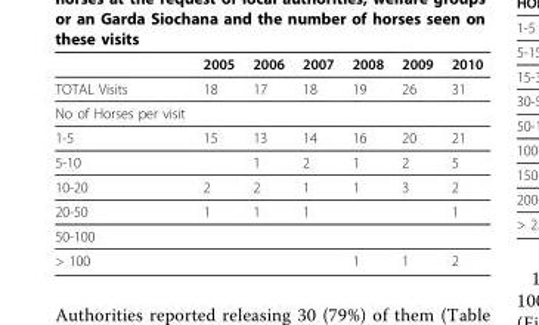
<table><thead><tr><td></td><td>2005</td><td>2006</td><td>2007</td><td>2008</td><td>2009</td><td>2010</td></tr></thead><tbody><tr><td>TOTAL Visits</td><td>18</td><td>17</td><td>18</td><td>19</td><td>26</td><td>31</td></tr><tr><td colspan="7">No of Horses per visit</td></tr><tr><td>1-5</td><td>15</td><td>13</td><td>14</td><td>16</td><td>20</td><td>21</td></tr><tr><td>5-10</td><td></td><td>1</td><td>2</td><td>1</td><td>2</td><td>5</td></tr><tr><td>10-20</td><td>2</td><td>2</td><td>1</td><td>1</td><td>3</td><td>2</td></tr><tr><td>20-50</td><td>1</td><td>1</td><td>1</td><td></td><td></td><td>1</td></tr><tr><td colspan="7">50-100</td></tr><tr><td>&gt; 100</td><td></td><td></td><td></td><td>1</td><td>1</td><td>2</td></tr></tbody></table>